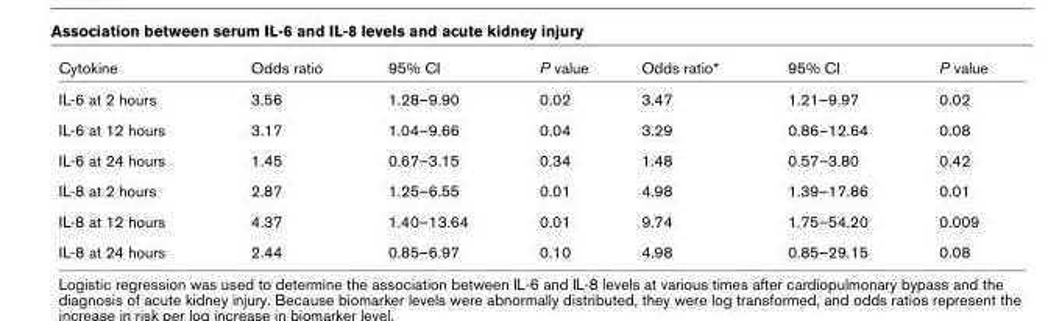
<table><thead><tr><td>Cytokine</td><td>Odds ratio</td><td>95% CI</td><td>P value</td><td>Odds ratio*</td><td>95% CI</td><td>P value</td></tr></thead><tbody><tr><td>IL-6 at 2 hours</td><td>3.56</td><td>1.28–9.90</td><td>0.02</td><td>3.47</td><td>1.21–9.97</td><td>0.02</td></tr><tr><td>IL-6 at 12 hours</td><td>3.17</td><td>1.04–9.66</td><td>0.04</td><td>3.29</td><td>0.86–12.64</td><td>0.08</td></tr><tr><td>IL-6 at 24 hours</td><td>1.45</td><td>0.67–3.15</td><td>0.34</td><td>1.48</td><td>0.57–3.80</td><td>0.42</td></tr><tr><td>IL-8 at 2 hours</td><td>2.87</td><td>1.25–6.55</td><td>0.01</td><td>4.98</td><td>1.39–17.86</td><td>0.01</td></tr><tr><td>IL-8 at 12 hours</td><td>4.37</td><td>1.40–13.64</td><td>0.01</td><td>9.74</td><td>1.75–54.20</td><td>0.009</td></tr><tr><td>IL-8 at 24 hours</td><td>2.44</td><td>0.85–6.97</td><td>0.10</td><td>4.98</td><td>0.85–29.15</td><td>0.08</td></tr></tbody></table>